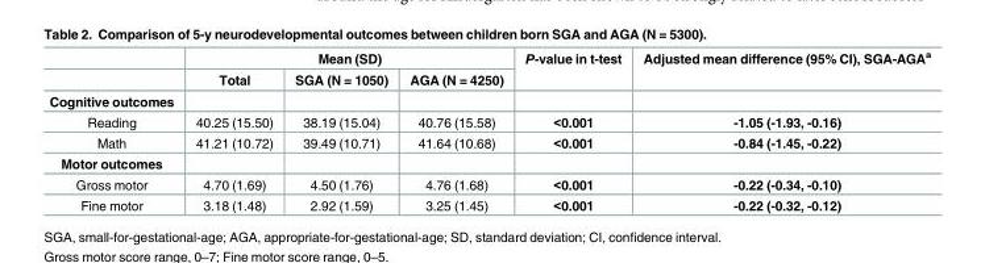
<table><thead><tr><td rowspan="2"></td><td colspan="3">Mean (SD)</td><td rowspan="2">P-value in t-test</td><td rowspan="2">Adjusted mean difference (95% CI), SGA-AGA<sup>a</sup></td></tr><tr><td>Total</td><td>SGA (N = 1050)</td><td>AGA (N = 4250)</td></tr></thead><tbody><tr><td colspan="6">Cognitive outcomes</td></tr><tr><td>Reading</td><td>40.25 (15.50)</td><td>38.19 (15.04)</td><td>40.76 (15.58)</td><td>&lt;0.001</td><td>-1.05 (-1.93, -0.16)</td></tr><tr><td>Math</td><td>41.21 (10.72)</td><td>39.49 (10.71)</td><td>41.64 (10.68)</td><td>&lt;0.001</td><td>-0.84 (-1.45, -0.22)</td></tr><tr><td colspan="6">Motor outcomes</td></tr><tr><td>Gross motor</td><td>4.70 (1.69)</td><td>4.50 (1.76)</td><td>4.76 (1.68)</td><td>&lt;0.001</td><td>-0.22 (-0.34, -0.10)</td></tr><tr><td>Fine motor</td><td>3.18 (1.48)</td><td>2.92 (1.59)</td><td>3.25 (1.45)</td><td>&lt;0.001</td><td>-0.22 (-0.32, -0.12)</td></tr></tbody></table>